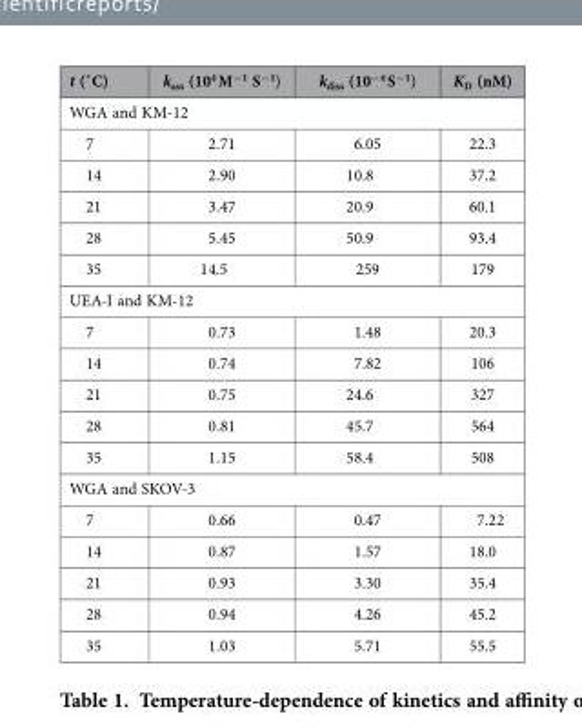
<table><thead><tr><td>t (˚C)</td><td>k<sub>ass</sub> (10<sup>4</sup> M<sup>−1</sup> S<sup>−1</sup>)</td><td>k<sub>diss</sub> (10<sup>−4</sup> S<sup>−1</sup>)</td><td>K<sub>D</sub> (nM)</td></tr></thead><tbody><tr><td colspan="4">WGA and KM-12</td></tr><tr><td>7</td><td>2.71</td><td>6.05</td><td>22.3</td></tr><tr><td>14</td><td>2.90</td><td>10.8</td><td>37.2</td></tr><tr><td>21</td><td>3.47</td><td>20.9</td><td>60.1</td></tr><tr><td>28</td><td>5.45</td><td>50.9</td><td>93.4</td></tr><tr><td>35</td><td>14.5</td><td>259</td><td>179</td></tr><tr><td colspan="4">UEA-I and KM-12</td></tr><tr><td>7</td><td>0.73</td><td>1.48</td><td>20.3</td></tr><tr><td>14</td><td>0.74</td><td>7.82</td><td>106</td></tr><tr><td>21</td><td>0.75</td><td>24.6</td><td>327</td></tr><tr><td>28</td><td>0.81</td><td>45.7</td><td>564</td></tr><tr><td>35</td><td>1.15</td><td>58.4</td><td>508</td></tr><tr><td colspan="4">WGA and SKOV-3</td></tr><tr><td>7</td><td>0.66</td><td>0.47</td><td>7.22</td></tr><tr><td>14</td><td>0.87</td><td>1.57</td><td>18.0</td></tr><tr><td>21</td><td>0.93</td><td>3.30</td><td>35.4</td></tr><tr><td>28</td><td>0.94</td><td>4.26</td><td>45.2</td></tr><tr><td>35</td><td>1.03</td><td>5.71</td><td>55.5</td></tr></tbody></table>